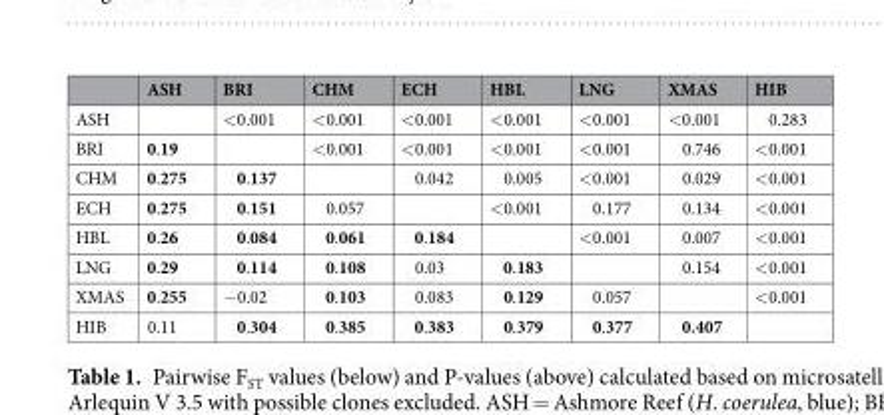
<table><thead><tr><td></td><td>ASH</td><td>BRI</td><td>CHM</td><td>ECH</td><td>HBL</td><td>LNG</td><td>XMAS</td><td>HIB</td></tr></thead><tbody><tr><td>ASH</td><td></td><td>&lt;0.001</td><td>&lt;0.001</td><td>&lt;0.001</td><td>&lt;0.001</td><td>&lt;0.001</td><td>&lt;0.001</td><td>0.283</td></tr><tr><td>BRI</td><td>0.19</td><td></td><td>&lt;0.001</td><td>&lt;0.001</td><td>&lt;0.001</td><td>&lt;0.001</td><td>0.746</td><td>&lt;0.001</td></tr><tr><td>CHM</td><td>0.275</td><td>0.137</td><td></td><td>0.042</td><td>0.005</td><td>&lt;0.001</td><td>0.029</td><td>&lt;0.001</td></tr><tr><td>ECH</td><td>0.275</td><td>0.151</td><td>0.057</td><td></td><td>&lt;0.001</td><td>0.177</td><td>0.134</td><td>&lt;0.001</td></tr><tr><td>HBL</td><td>0.26</td><td>0.084</td><td>0.061</td><td>0.184</td><td></td><td>&lt;0.001</td><td>0.007</td><td>&lt;0.001</td></tr><tr><td>LNG</td><td>0.29</td><td>0.114</td><td>0.108</td><td>0.03</td><td>0.183</td><td></td><td>0.154</td><td>&lt;0.001</td></tr><tr><td>XMAS</td><td>0.255</td><td>−0.02</td><td>0.103</td><td>0.083</td><td>0.129</td><td>0.057</td><td></td><td>&lt;0.001</td></tr><tr><td>HIB</td><td>0.11</td><td>0.304</td><td>0.385</td><td>0.383</td><td>0.379</td><td>0.377</td><td>0.407</td><td></td></tr></tbody></table>